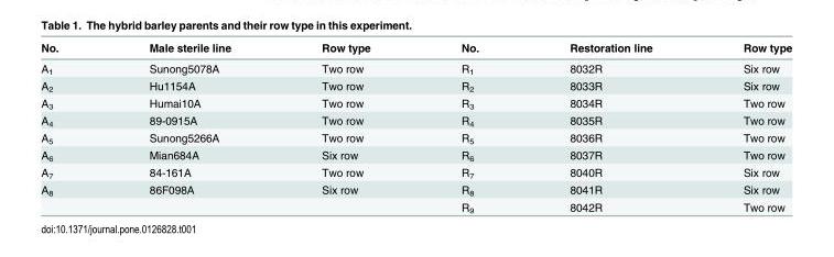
<table><thead><tr><td>No.</td><td>Male sterile line</td><td>Row type</td><td>No.</td><td>Restoration line</td><td>Row type</td></tr></thead><tbody><tr><td>A<sub>1</sub></td><td>Sunong5078A</td><td>Two row</td><td>R<sub>1</sub></td><td>8032R</td><td>Six row</td></tr><tr><td>A<sub>2</sub></td><td>Hu1154A</td><td>Two row</td><td>R<sub>2</sub></td><td>8033R</td><td>Six row</td></tr><tr><td>A<sub>3</sub></td><td>Humai10A</td><td>Two row</td><td>R<sub>3</sub></td><td>8034R</td><td>Two row</td></tr><tr><td>A<sub>4</sub></td><td>89-0915A</td><td>Two row</td><td>R<sub>4</sub></td><td>8035R</td><td>Two row</td></tr><tr><td>A<sub>5</sub></td><td>Sunong5266A</td><td>Two row</td><td>R<sub>5</sub></td><td>8036R</td><td>Two row</td></tr><tr><td>A<sub>6</sub></td><td>Mian684A</td><td>Six row</td><td>R<sub>6</sub></td><td>8037R</td><td>Two row</td></tr><tr><td>A<sub>7</sub></td><td>84-161A</td><td>Two row</td><td>R<sub>7</sub></td><td>8040R</td><td>Six row</td></tr><tr><td rowspan="2">A<sub>8</sub></td><td>86F098A</td><td>Six row</td><td>R<sub>8</sub></td><td>8041R</td><td>Six row</td></tr><tr><td></td><td></td><td>R<sub>9</sub></td><td>8042R</td><td>Two row</td></tr></tbody></table>